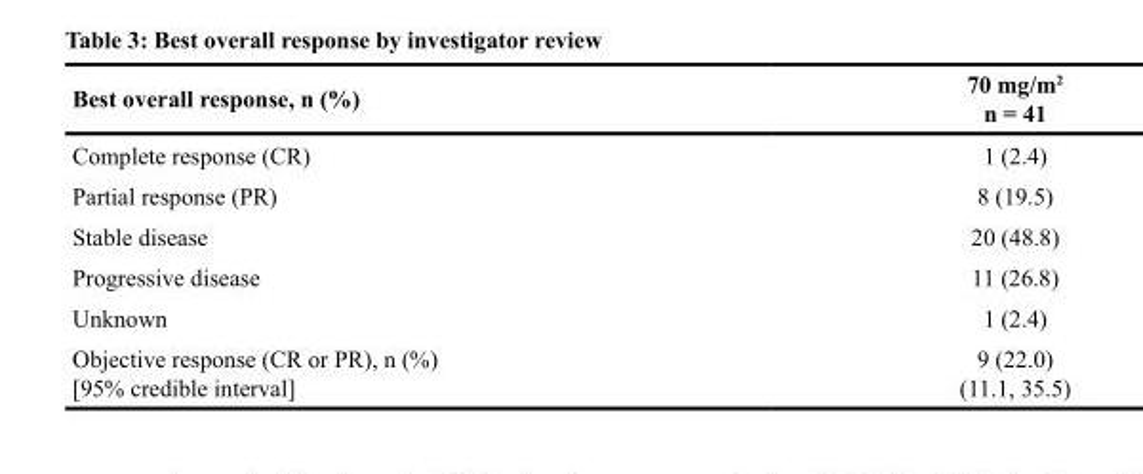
<table><thead><tr><td>Best overall response, n (%)</td><td>70 mg/m<sup>2</sup> n = 41</td></tr></thead><tbody><tr><td>Complete response (CR)</td><td>1 (2.4)</td></tr><tr><td>Partial response (PR)</td><td>8 (19.5)</td></tr><tr><td>Stable disease</td><td>20 (48.8)</td></tr><tr><td>Progressive disease</td><td>11 (26.8)</td></tr><tr><td>Unknown</td><td>1 (2.4)</td></tr><tr><td>Objective response (CR or PR), n (%) [95% credible interval]</td><td>9 (22.0) (11.1, 35.5)</td></tr></tbody></table>